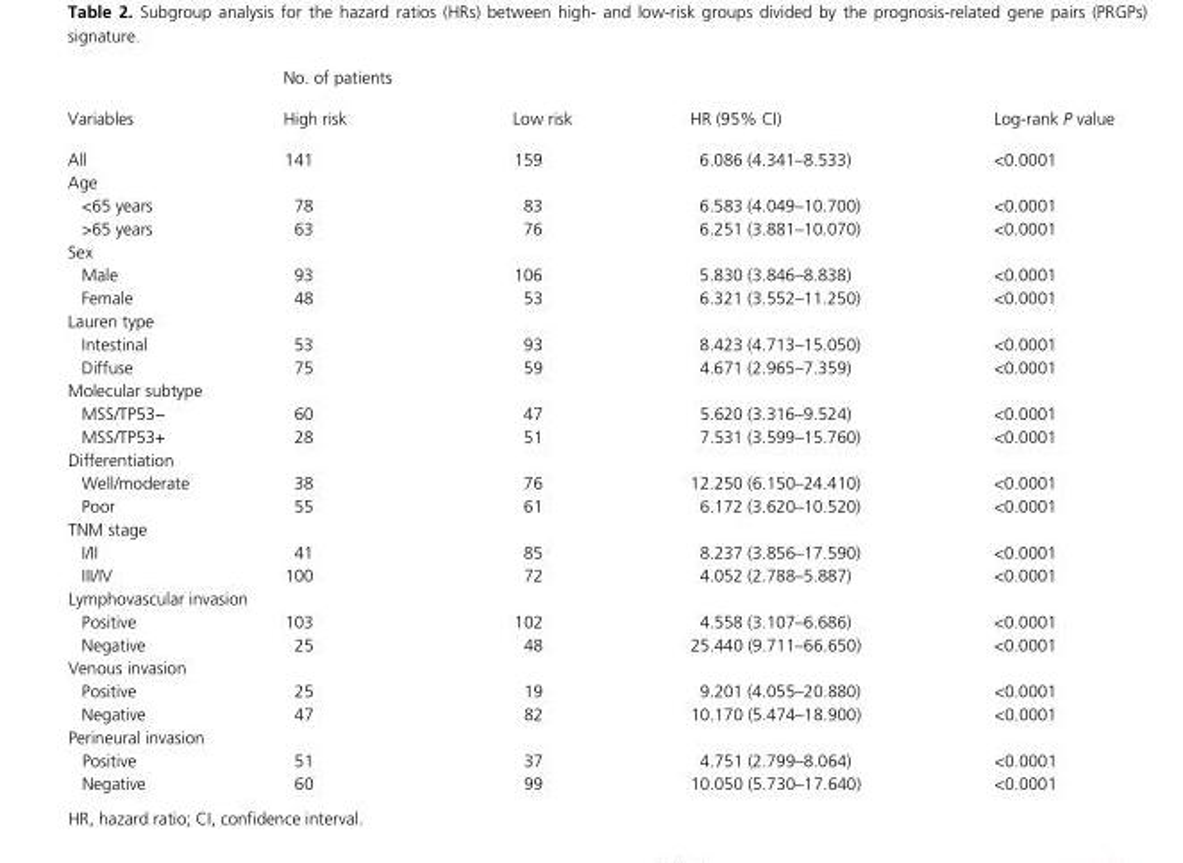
<table><thead><tr><td rowspan="2">Variables</td><td colspan="2">No. of patients</td><td rowspan="2">HR (95% CI)</td><td rowspan="2">Log- rank P value</td></tr><tr><td>High risk</td><td>Low risk</td></tr></thead><tbody><tr><td>All</td><td>141</td><td>159</td><td>6.086 (4.341–8.533)</td><td>&lt;0.0001</td></tr><tr><td colspan="5">Age</td></tr><tr><td>&lt;65 years</td><td>78</td><td>83</td><td>6.583 (4.049–10.700)</td><td>&lt;0.0001</td></tr><tr><td>&gt;65 years</td><td>63</td><td>76</td><td>6.251 (3.881–10.070)</td><td>&lt;0.0001</td></tr><tr><td colspan="5">Sex</td></tr><tr><td>Male</td><td>93</td><td>106</td><td>5.830 (3.846–8.838)</td><td>&lt;0.0001</td></tr><tr><td>Female</td><td>48</td><td>53</td><td>6.321 (3.552–11.250)</td><td>&lt;0.0001</td></tr><tr><td colspan="5">Lauren type</td></tr><tr><td>Intestinal</td><td>53</td><td>93</td><td>8.423 (4.713–15.050)</td><td>&lt;0.0001</td></tr><tr><td>Diffuse</td><td>75</td><td>59</td><td>4.671 (2.965–7.359)</td><td>&lt;0.0001</td></tr><tr><td colspan="5">Molecular subtype</td></tr><tr><td>MSS/TP53−</td><td>60</td><td>47</td><td>5.620 (3.316–9.524)</td><td>&lt;0.0001</td></tr><tr><td>MSS/TP53+</td><td>28</td><td>51</td><td>7.531 (3.599–15.760)</td><td>&lt;0.0001</td></tr><tr><td colspan="5">Differentiation</td></tr><tr><td>Well/moderate</td><td>38</td><td>76</td><td>12.250 (6.150–24.410)</td><td>&lt;0.0001</td></tr><tr><td>Poor</td><td>55</td><td>61</td><td>6.172 (3.620–10.520)</td><td>&lt;0.0001</td></tr><tr><td colspan="5">TNM stage</td></tr><tr><td>I/II</td><td>41</td><td>85</td><td>8.237 (3.856–17.590)</td><td>&lt;0.0001</td></tr><tr><td>III/IV</td><td>100</td><td>72</td><td>4.052 (2.788–5.887)</td><td>&lt;0.0001</td></tr><tr><td colspan="5">Lymphovascular invasion</td></tr><tr><td>Positive</td><td>103</td><td>102</td><td>4.558 (3.107–6.686)</td><td>&lt;0.0001</td></tr><tr><td>Negative</td><td>25</td><td>48</td><td>25.440 (9.711–66.650)</td><td>&lt;0.0001</td></tr><tr><td colspan="5">Venous invasion</td></tr><tr><td>Positive</td><td>25</td><td>19</td><td>9.201 (4.055–20.880)</td><td>&lt;0.0001</td></tr><tr><td>Negative</td><td>47</td><td>82</td><td>10.170 (5.474–18.900)</td><td>&lt;0.0001</td></tr><tr><td colspan="5">Perineural invasion</td></tr><tr><td>Positive</td><td>51</td><td>37</td><td>4.751 (2.799–8.064)</td><td>&lt;0.0001</td></tr><tr><td>Negative</td><td>60</td><td>99</td><td>10.050 (5.730–17.640)</td><td>&lt;0.0001</td></tr></tbody></table>